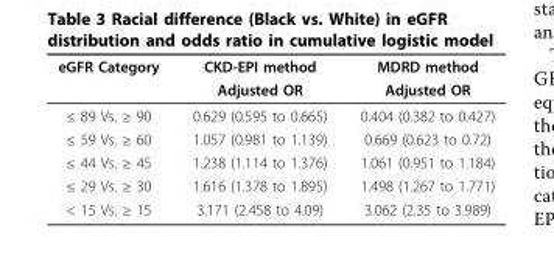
<table><thead><tr><td rowspan="2">eGFR Category</td><td rowspan="2">CKD-EPI method Adjusted OR</td><td rowspan="2">MDRD method Adjusted OR</td></tr><tr></tr></thead><tbody><tr><td>≤ 89 Vs. ≥ 90</td><td>0.629 (0.595 to 0.665)</td><td>0.404 (0.382 to 0.427)</td></tr><tr><td>≤ 59 Vs. ≥ 60</td><td>1.057 (0.981 to 1.139)</td><td>0.669 (0.623 to 0.72)</td></tr><tr><td>≤ 44 Vs. ≥ 45</td><td>1.238 (1.114 to 1.376)</td><td>1.061 (0.951 to 1.184)</td></tr><tr><td>≤ 29 Vs. ≥ 30</td><td>1.616 (1.378 to 1.895)</td><td>1.498 (1.267 to 1.771)</td></tr><tr><td>&lt; 15 Vs. ≥ 15</td><td>3.171 (2.458 to 4.09)</td><td>3.062 (2.35 to 3.989)</td></tr></tbody></table>